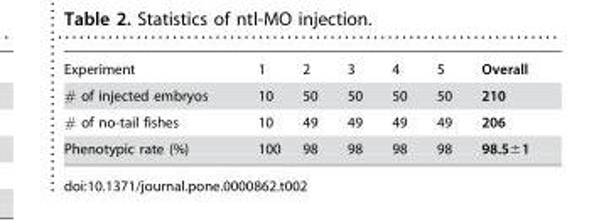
<table><tbody><tr><td>Experiment</td><td>1</td><td>2</td><td>3</td><td>4</td><td>5</td><td>Overall</td></tr><tr><td># of injected embryos</td><td>10</td><td>50</td><td>50</td><td>50</td><td>50</td><td>210</td></tr><tr><td># of no-tail fishes</td><td>10</td><td>49</td><td>49</td><td>49</td><td>49</td><td>206</td></tr><tr><td>Phenotypic rate (%)</td><td>100</td><td>98</td><td>98</td><td>98</td><td>98</td><td>98.5±1</td></tr></tbody></table>